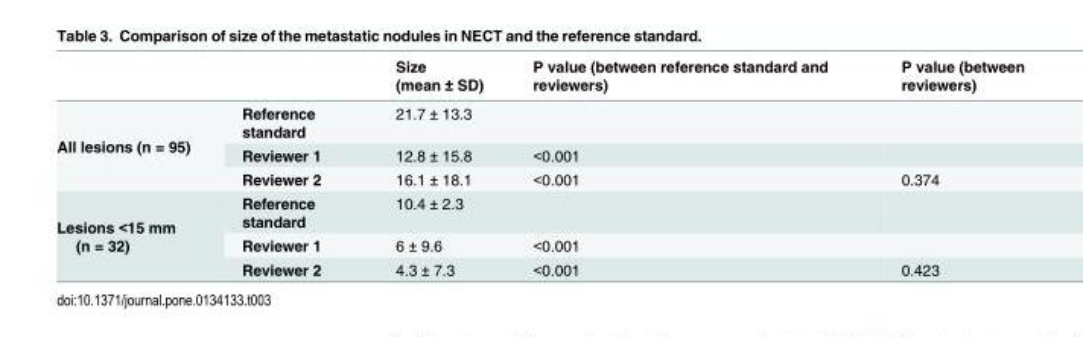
<table><thead><tr><td></td><td></td><td>Size (mean ± SD)</td><td>P value (between reference standard and reviewers)</td><td>P value (between reviewers)</td></tr></thead><tbody><tr><td rowspan="3">All lesions (n = 95)</td><td>Reference standard</td><td>21.7 ± 13.3</td><td></td><td></td></tr><tr><td>Reviewer 1</td><td>12.8 ± 15.8</td><td>&lt;0.001</td><td></td></tr><tr><td>Reviewer 2</td><td>16.1 ± 18.1</td><td>&lt;0.001</td><td>0.374</td></tr><tr><td rowspan="3">Lesions &lt;15 mm (n = 32)</td><td>Reference standard</td><td>10.4 ± 2.3</td><td></td><td></td></tr><tr><td>Reviewer 1</td><td>6 ± 9.6</td><td>&lt;0.001</td><td></td></tr><tr><td>Reviewer 2</td><td>4.3 ± 7.3</td><td>&lt;0.001</td><td>0.423</td></tr></tbody></table>